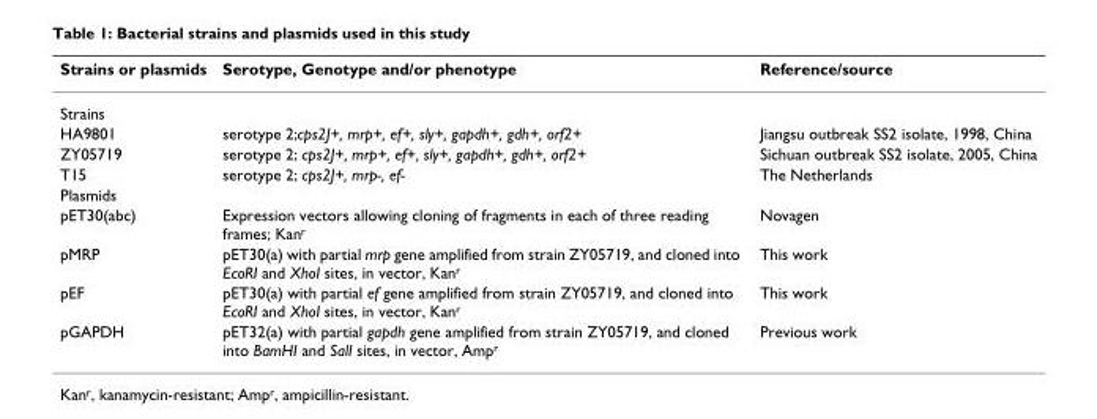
<table><thead><tr><td>Strains or plasmids</td><td>Serotype, Genotype and/or phenotype</td><td>Reference/source</td></tr></thead><tbody><tr><td colspan="3">Strains</td></tr><tr><td>HA9801</td><td>serotype 2;cps2J+, mrp+, ef+, sly+, gapdh+, gdh+, orf2+</td><td>Jiangsu outbreak SS2 isolate, 1998, China</td></tr><tr><td>ZY05719</td><td>serotype 2; cps2J+, mrp+, ef+, sly+, gapdh+, gdh+, orf2+</td><td>Sichuan outbreak SS2 isolate, 2005, China</td></tr><tr><td>T15</td><td>serotype 2; cps2J+, mrp-, ef-</td><td>The Netherlands</td></tr><tr><td colspan="3">Plasmids</td></tr><tr><td>pET30(abc)</td><td>Expression vectors allowing cloning of fragments in each of three reading frames; Kan<sup>r</sup></td><td>Novagen</td></tr><tr><td>pMRP</td><td>pET30(a) with partial mrp gene amplified from strain ZY05719, and cloned into EcoRI and XhoI sites, in vector, Kan<sup>r</sup></td><td>This work</td></tr><tr><td>pEF</td><td>pET30(a) with partial ef gene amplified from strain ZY05719, and cloned into EcoRI and XhoI sites, in vector, Kan<sup>r</sup></td><td>This work</td></tr><tr><td>pGAPDH</td><td>pET32(a) with partial gapdh gene amplified from strain ZY05719, and cloned into BamHI and SalI sites, in vector, Amp<sup>r</sup></td><td>Previous work</td></tr></tbody></table>